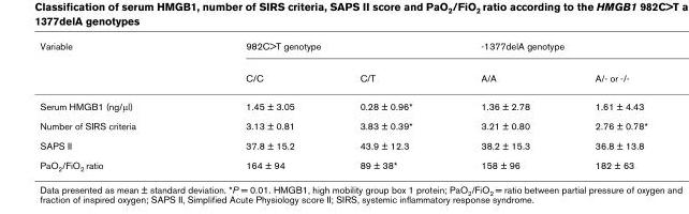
<table><thead><tr><td rowspan="2">Variable</td><td colspan="2">982C&gt;T genotype</td><td colspan="2">-1377delA genotype</td></tr><tr><td>C/C</td><td>C/T</td><td>A/A</td><td>A/- or -/-</td></tr></thead><tbody><tr><td>Serum HMGB1 (ng/μl)</td><td>1.45 ± 3.05</td><td>0.28 ± 0.96*</td><td>1.36 ± 2.78</td><td>1.61 ± 4.43</td></tr><tr><td>Number of SIRS criteria</td><td>3.13 ± 0.81</td><td>3.83 ± 0.39*</td><td>3.21 ± 0.80</td><td>2.76 ± 0.78*</td></tr><tr><td>SAPS II</td><td>37.8 ± 15.2</td><td>43.9 ± 12.3</td><td>38.2 ± 15.3</td><td>36.8 ± 13.8</td></tr><tr><td>PaO<sub>2</sub>/FiO<sub>2</sub> ratio</td><td>164 ± 94</td><td>89 ± 38*</td><td>158 ± 96</td><td>182 ± 63</td></tr></tbody></table>